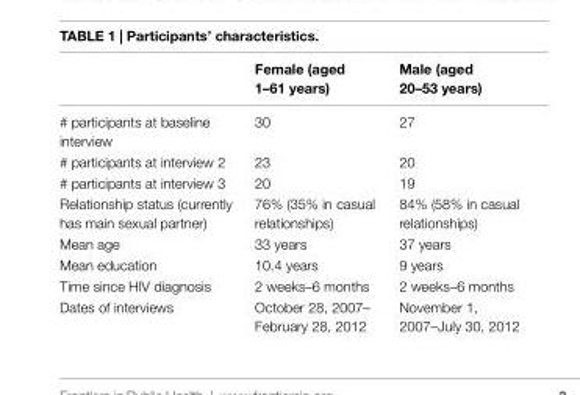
<table><thead><tr><td></td><td>Female (aged 1–61 years)</td><td>Male (aged 20–53 years)</td></tr></thead><tbody><tr><td># participants at baseline interview</td><td>30</td><td>27</td></tr><tr><td># participants at interview 2</td><td>23</td><td>20</td></tr><tr><td># participants at interview 3</td><td>20</td><td>19</td></tr><tr><td>Relationship status (currently has main sexual partner)</td><td>76% (35% in casual relationships)</td><td>84% (58% in casual relationships)</td></tr><tr><td>Mean age</td><td>33 years</td><td>37 years</td></tr><tr><td>Mean education</td><td>10.4 years</td><td>9 years</td></tr><tr><td>Time since HIV diagnosis</td><td>2 weeks–6 months</td><td>2 weeks–6 months</td></tr><tr><td>Dates of interviews</td><td>October 28, 2007– February 28, 2012</td><td>November 1, 2007–July 30, 2012</td></tr></tbody></table>